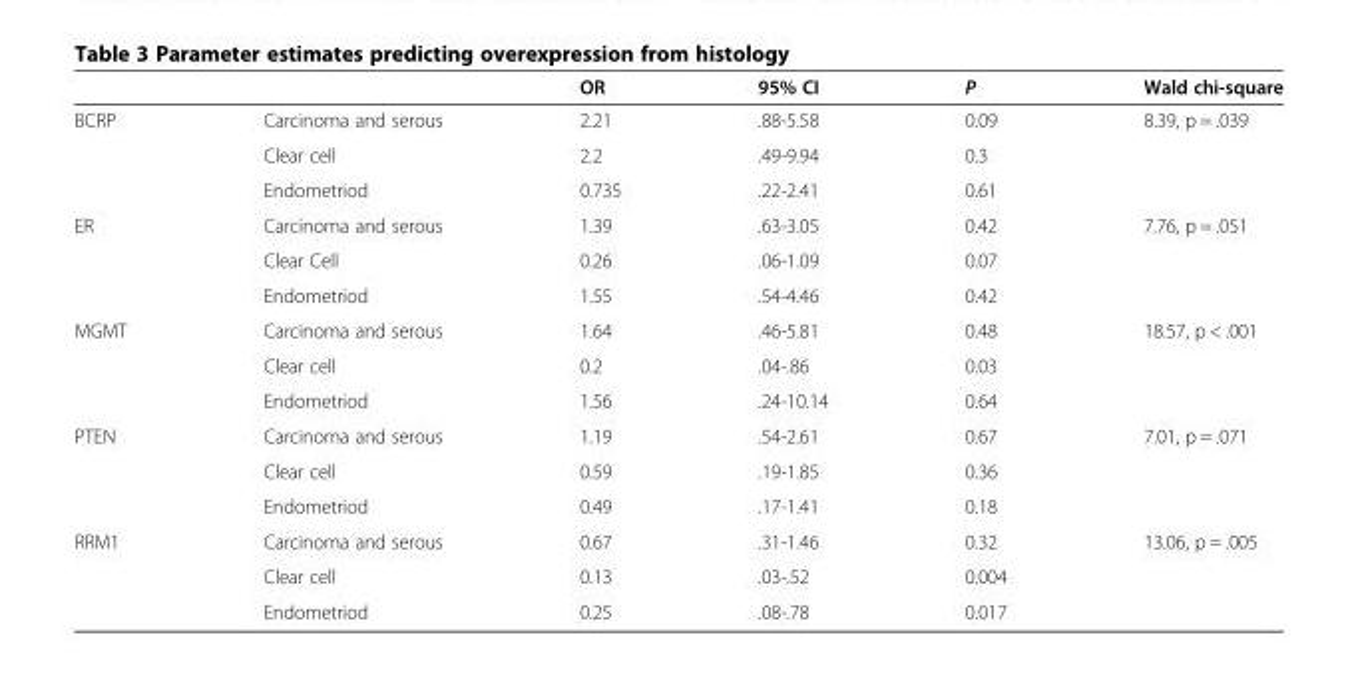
<table><thead><tr><td></td><td></td><td>OR</td><td>95% CI</td><td>P</td><td>Wald chi-square</td></tr></thead><tbody><tr><td rowspan="3">BCRP</td><td>Carcinoma and serous</td><td>2.21</td><td>.88-5.58</td><td>0.09</td><td>8.39, p = .039</td></tr><tr><td>Clear cell</td><td>2.2</td><td>.49-9.94</td><td>0.3</td><td></td></tr><tr><td>Endometriod</td><td>0.735</td><td>.22-2.41</td><td>0.61</td><td></td></tr><tr><td rowspan="3">ER</td><td>Carcinoma and serous</td><td>1.39</td><td>.63-3.05</td><td>0.42</td><td>7.76, p = .051</td></tr><tr><td>Clear Cell</td><td>0.26</td><td>.06-1.09</td><td>0.07</td><td></td></tr><tr><td>Endometriod</td><td>1.55</td><td>.54-4.46</td><td>0.42</td><td></td></tr><tr><td rowspan="3">MGMT</td><td>Carcinoma and serous</td><td>1.64</td><td>.46-5.81</td><td>0.48</td><td>18.57, p &lt; .001</td></tr><tr><td>Clear cell</td><td>0.2</td><td>.04-.86</td><td>0.03</td><td></td></tr><tr><td>Endometriod</td><td>1.56</td><td>.24-10.14</td><td>0.64</td><td></td></tr><tr><td rowspan="3">PTEN</td><td>Carcinoma and serous</td><td>1.19</td><td>.54-2.61</td><td>0.67</td><td>7.01, p = .071</td></tr><tr><td>Clear cell</td><td>0.59</td><td>.19-1.85</td><td>0.36</td><td></td></tr><tr><td>Endometriod</td><td>0.49</td><td>.17-1.41</td><td>0.18</td><td></td></tr><tr><td rowspan="3">RRM1</td><td>Carcinoma and serous</td><td>0.67</td><td>.31-1.46</td><td>0.32</td><td>13.06, p = .005</td></tr><tr><td>Clear cell</td><td>0.13</td><td>.03-.52</td><td>0.004</td><td></td></tr><tr><td>Endometriod</td><td>0.25</td><td>.08-.78</td><td>0.017</td><td></td></tr></tbody></table>